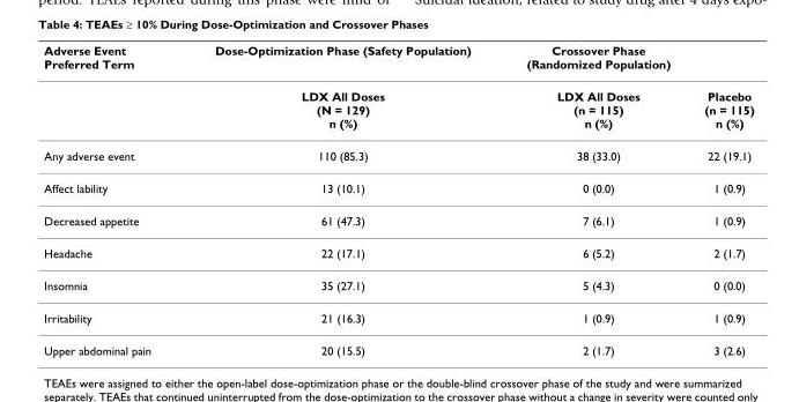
<table><thead><tr><td>Adverse Event Preferred Term</td><td>Dose-Optimization Phase (Safety Population)</td><td>Crossover Phase (Randomized Population)</td><td></td></tr></thead><tbody><tr><td></td><td>LDX All Doses (N = 129) n (%)</td><td>LDX All Doses (n = 115) n (%)</td><td>Placebo (n = 115) n (%)</td></tr><tr><td>Any adverse event</td><td>110 (85.3)</td><td>38 (33.0)</td><td>22 (19.1)</td></tr><tr><td>Affect lability</td><td>13 (10.1)</td><td>0 (0.0)</td><td>1 (0.9)</td></tr><tr><td>Decreased appetite</td><td>61 (47.3)</td><td>7 (6.1)</td><td>1 (0.9)</td></tr><tr><td>Headache</td><td>22 (17.1)</td><td>6 (5.2)</td><td>2 (1.7)</td></tr><tr><td>Insomnia</td><td>35 (27.1)</td><td>5 (4.3)</td><td>0 (0.0)</td></tr><tr><td>Irritability</td><td>21 (16.3)</td><td>1 (0.9)</td><td>1 (0.9)</td></tr><tr><td>Upper abdominal pain</td><td>20 (15.5)</td><td>2 (1.7)</td><td>3 (2.6)</td></tr></tbody></table>